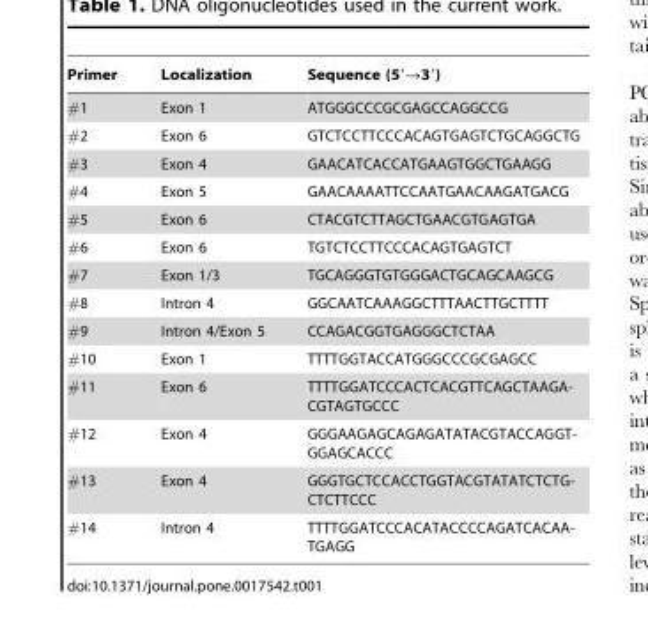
<table><thead><tr><td>Primer</td><td>Localization</td><td>Sequence (5′→3′)</td></tr></thead><tbody><tr><td>#1</td><td>Exon 1</td><td>ATGGGCCCGCGAGCCAGGCCG</td></tr><tr><td>#2</td><td>Exon 6</td><td>GTCTCCTTCCCACAGTGAGTCTGCAGGCTG</td></tr><tr><td>#3</td><td>Exon 4</td><td>GAACATCACCATGAAGTGGCTGAAGG</td></tr><tr><td>#4</td><td>Exon 5</td><td>GAACAAAATTCCAATGAACAAGATGACG</td></tr><tr><td>#5</td><td>Exon 6</td><td>CTACGTCTTAGCTGAACGTGAGTGA</td></tr><tr><td>#6</td><td>Exon 6</td><td>TGTCTCCTTCCCACAGTGAGTCT</td></tr><tr><td>#7</td><td>Exon 1/3</td><td>TGCAGGGTGTGGGACTGCAGCAAGCG</td></tr><tr><td>#8</td><td>Intron 4</td><td>GGCAATCAAAGGCTTTAACTTGCTTTT</td></tr><tr><td>#9</td><td>Intron 4/Exon 5</td><td>CCAGACGGTGAGGGCTCTAA</td></tr><tr><td>#10</td><td>Exon 1</td><td>TTTTGGTACCATGGGCCCGCGAGCC</td></tr><tr><td>#11</td><td>Exon 6</td><td>TTTTGGATCCCACTCACGTTCAGCTAAGA- CGTAGTGCCC</td></tr><tr><td>#12</td><td>Exon 4</td><td>GGGAAGAGCAGAGATATACGTACCAGGT- GGAGCACCC</td></tr><tr><td>#13</td><td>Exon 4</td><td>GGGTGCTCCACCTGGTACGTATATCTCTG- CTCTTCCC</td></tr><tr><td>#14</td><td>Intron 4</td><td>TTTTGGATCCCACATACCCCAGATCACAA- TGAGG</td></tr></tbody></table>